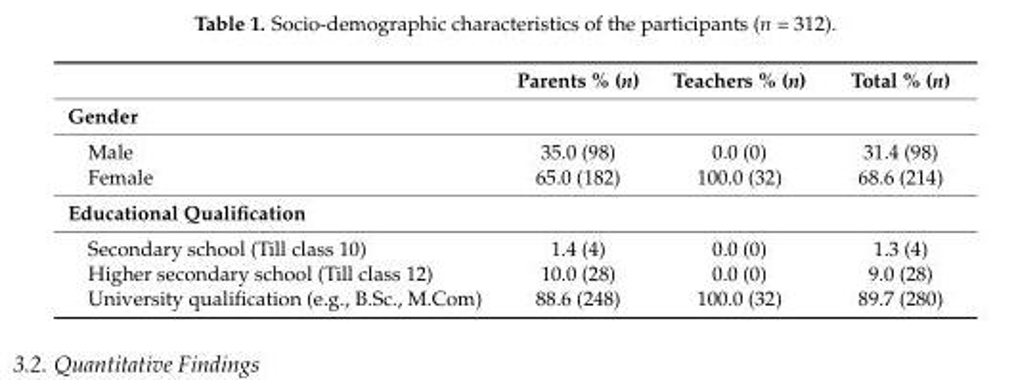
<table><thead><tr><td></td><td>Parents % (n)</td><td>Teachers % (n)</td><td>Total % (n)</td></tr></thead><tbody><tr><td colspan="4">Gender</td></tr><tr><td>Male</td><td>35.0 (98)</td><td>0.0 (0)</td><td>31.4 (98)</td></tr><tr><td>Female</td><td>65.0 (182)</td><td>100.0 (32)</td><td>68.6 (214)</td></tr><tr><td colspan="4">Educational Qualification</td></tr><tr><td>Secondary school (Till class 10)</td><td>1.4 (4)</td><td>0.0 (0)</td><td>1.3 (4)</td></tr><tr><td>Higher secondary school (Till class 12)</td><td>10.0 (28)</td><td>0.0 (0)</td><td>9.0 (28)</td></tr><tr><td>University qualification (e.g., B.Sc., M.Com)</td><td>88.6 (248)</td><td>100.0 (32)</td><td>89.7 (280)</td></tr></tbody></table>